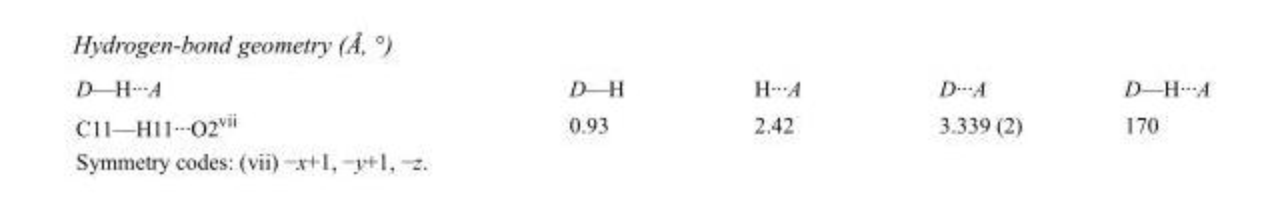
<table><tbody><tr><td>D—H···A</td><td>D—H</td><td>H···A</td><td>D···A</td><td>D—H···A</td></tr><tr><td>C11—H11···O2<sup>vii</sup></td><td>0.93</td><td>2.42</td><td>3.339 (2)</td><td>170</td></tr></tbody></table>